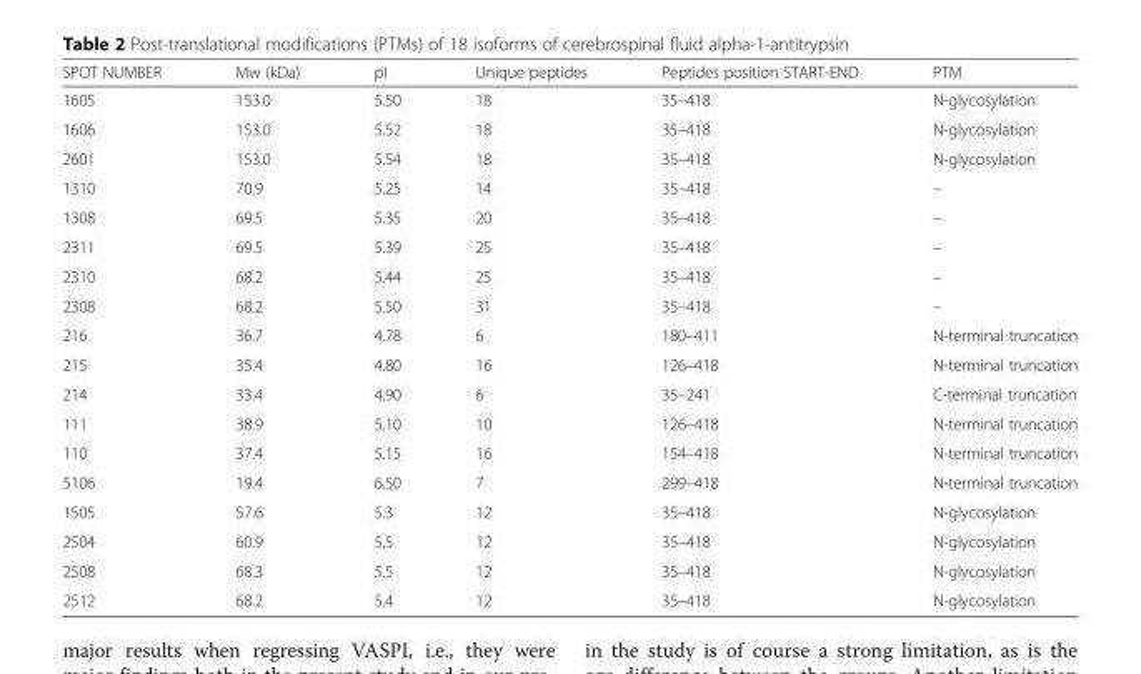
<table><thead><tr><td>SPOT NUMBER</td><td>Mw (kDa)</td><td>pI</td><td>Unique peptides</td><td>Peptides position START-END</td><td>PTM</td></tr></thead><tbody><tr><td>1605</td><td>153.0</td><td>5.50</td><td>18</td><td>35–418</td><td>N-glycosylation</td></tr><tr><td>1606</td><td>153.0</td><td>5.52</td><td>18</td><td>35–418</td><td>N-glycosylation</td></tr><tr><td>2601</td><td>153.0</td><td>5.54</td><td>18</td><td>35–418</td><td>N-glycosylation</td></tr><tr><td>1310</td><td>70.9</td><td>5.25</td><td>14</td><td>35–418</td><td>–</td></tr><tr><td>1308</td><td>69.5</td><td>5.35</td><td>20</td><td>35–418</td><td>–</td></tr><tr><td>2311</td><td>69.5</td><td>5.39</td><td>25</td><td>35–418</td><td>–</td></tr><tr><td>2310</td><td>68.2</td><td>5.44</td><td>25</td><td>35–418</td><td>–</td></tr><tr><td>2308</td><td>68.2</td><td>5.50</td><td>31</td><td>35–418</td><td>–</td></tr><tr><td>216</td><td>36.7</td><td>4.78</td><td>6</td><td>180–411</td><td>N-terminal truncation</td></tr><tr><td>215</td><td>35.4</td><td>4.80</td><td>16</td><td>126–418</td><td>N-terminal truncation</td></tr><tr><td>214</td><td>33.4</td><td>4.90</td><td>6</td><td>35–241</td><td>C-terminal truncation</td></tr><tr><td>111</td><td>38.9</td><td>5.10</td><td>10</td><td>126–418</td><td>N-terminal truncation</td></tr><tr><td>110</td><td>37.4</td><td>5.15</td><td>16</td><td>154–418</td><td>N-terminal truncation</td></tr><tr><td>5106</td><td>19.4</td><td>6.50</td><td>7</td><td>299–418</td><td>N-terminal truncation</td></tr><tr><td>1505</td><td>57.6</td><td>5.3</td><td>12</td><td>35–418</td><td>N-glycosylation</td></tr><tr><td>2504</td><td>60.9</td><td>5.5</td><td>12</td><td>35–418</td><td>N-glycosylation</td></tr><tr><td>2508</td><td>68.3</td><td>5.5</td><td>12</td><td>35–418</td><td>N-glycosylation</td></tr><tr><td>2512</td><td>68.2</td><td>5.4</td><td>12</td><td>35–418</td><td>N-glycosylation</td></tr></tbody></table>